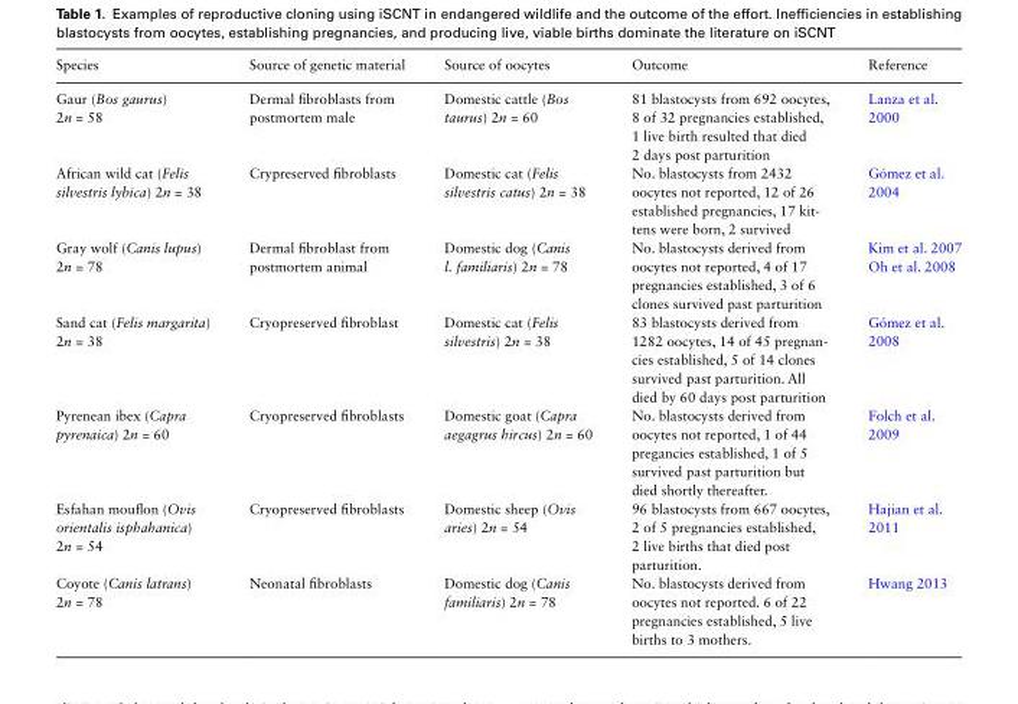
<table><thead><tr><td>Species</td><td>Source of genetic material</td><td>Source of oocytes</td><td>Outcome</td><td>Reference</td></tr></thead><tbody><tr><td>Gaur (Bos gaurus) 2n = 58</td><td>Dermal fibroblasts from postmortem male</td><td>Domestic cattle (Bos taurus) 2n = 60</td><td>81 blastocysts from 692 oocytes, 8 of 32 pregnancies established, 1 live birth resulted that died 2 days post parturition</td><td>Lanza et al. 2000</td></tr><tr><td>African wild cat (Felis silvestris lybica) 2n = 38</td><td>Crypreserved fibroblasts</td><td>Domestic cat (Felis silvestris catus) 2n = 38</td><td>No. blastocysts from 2432 oocytes not reported, 12 of 26 established pregnancies, 17 kit- tens were born, 2 survived</td><td>Gómez et al. 2004</td></tr><tr><td>Gray wolf (Canis lupus) 2n = 78</td><td>Dermal fibroblast from postmortem animal</td><td>Domestic dog (Canis l. familiaris) 2n = 78</td><td>No. blastocysts derived from oocytes not reported, 4 of 17 pregnancies established, 3 of 6 clones survived past parturition</td><td>Kim et al. 2007 Oh et al. 2008</td></tr><tr><td>Sand cat (Felis margarita) 2n = 38</td><td>Cryopreserved fibroblast</td><td>Domestic cat (Felis silvestris) 2n = 38</td><td>83 blastocysts derived from 1282 oocytes, 14 of 45 pregnan- cies established, 5 of 14 clones survived past parturition. All died by 60 days post parturition</td><td>Gómez et al. 2008</td></tr><tr><td>Pyrenean ibex (Capra pyrenaica) 2n = 60</td><td>Cryopreserved fibroblasts</td><td>Domestic goat (Capra aegagrus hircus) 2n = 60</td><td>No. blastocysts derived from oocytes not reported, 1 of 44 pregancies established, 1 of 5 survived past parturition but died shortly thereafter.</td><td>Folch et al. 2009</td></tr><tr><td>Esfahan mouflon (Ovis orientalis isphahanica) 2n = 54</td><td>Cryopreserved fibroblasts</td><td>Domestic sheep (Ovis aries) 2n = 54</td><td>96 blastocysts from 667 oocytes, 2 of 5 pregnancies established, 2 live births that died post parturition.</td><td>Hajian et al. 2011</td></tr><tr><td>Coyote (Canis latrans) 2n = 78</td><td>Neonatal fibroblasts</td><td>Domestic dog (Canis familiaris) 2n = 78</td><td>No. blastocysts derived from oocytes not reported. 6 of 22 pregnancies established, 5 live births to 3 mothers.</td><td>Hwang 2013</td></tr></tbody></table>